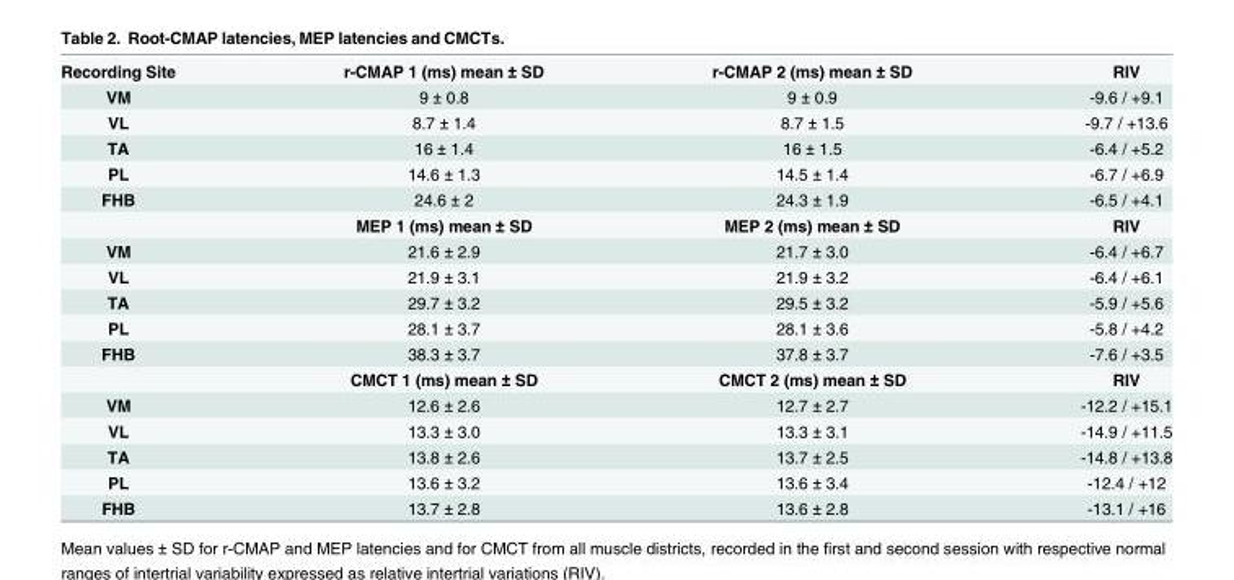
<table><tbody><tr><td>Recording Site</td><td>r-CMAP 1 (ms) mean ± SD</td><td>r-CMAP 2 (ms) mean ± SD</td><td>RIV</td></tr><tr><td>VM</td><td>9 ± 0.8</td><td>9 ± 0.9</td><td>-9.6 / +9.1</td></tr><tr><td>VL</td><td>8.7 ± 1.4</td><td>8.7 ± 1.5</td><td>-9.7 / +13.6</td></tr><tr><td>TA</td><td>16 ± 1.4</td><td>16 ± 1.5</td><td>-6.4 / +5.2</td></tr><tr><td>PL</td><td>14.6 ± 1.3</td><td>14.5 ± 1.4</td><td>-6.7 / +6.9</td></tr><tr><td rowspan="2">FHB</td><td>24.6 ± 2</td><td>24.3 ± 1.9</td><td>-6.5 / +4.1</td></tr><tr><td>MEP 1 (ms) mean ± SD</td><td>MEP 2 (ms) mean ± SD</td><td>RIV</td></tr><tr><td>VM</td><td>21.6 ± 2.9</td><td>21.7 ± 3.0</td><td>-6.4 / +6.7</td></tr><tr><td>VL</td><td>21.9 ± 3.1</td><td>21.9 ± 3.2</td><td>-6.4 / +6.1</td></tr><tr><td>TA</td><td>29.7 ± 3.2</td><td>29.5 ± 3.2</td><td>-5.9 / +5.6</td></tr><tr><td>PL</td><td>28.1 ± 3.7</td><td>28.1 ± 3.6</td><td>-5.8 / +4.2</td></tr><tr><td rowspan="2">FHB</td><td>38.3 ± 3.7</td><td>37.8 ± 3.7</td><td>-7.6 / +3.5</td></tr><tr><td>CMCT 1 (ms) mean ± SD</td><td>CMCT 2 (ms) mean ± SD</td><td>RIV</td></tr><tr><td>VM</td><td>12.6 ± 2.6</td><td>12.7 ± 2.7</td><td>-12.2 / +15.1</td></tr><tr><td>VL</td><td>13.3 ± 3.0</td><td>13.3 ± 3.1</td><td>-14.9 / +11.5</td></tr><tr><td>TA</td><td>13.8 ± 2.6</td><td>13.7 ± 2.5</td><td>-14.8 / +13.8</td></tr><tr><td>PL</td><td>13.6 ± 3.2</td><td>13.6 ± 3.4</td><td>-12.4 / +12</td></tr><tr><td>FHB</td><td>13.7 ± 2.8</td><td>13.6 ± 2.8</td><td>-13.1 / +16</td></tr></tbody></table>